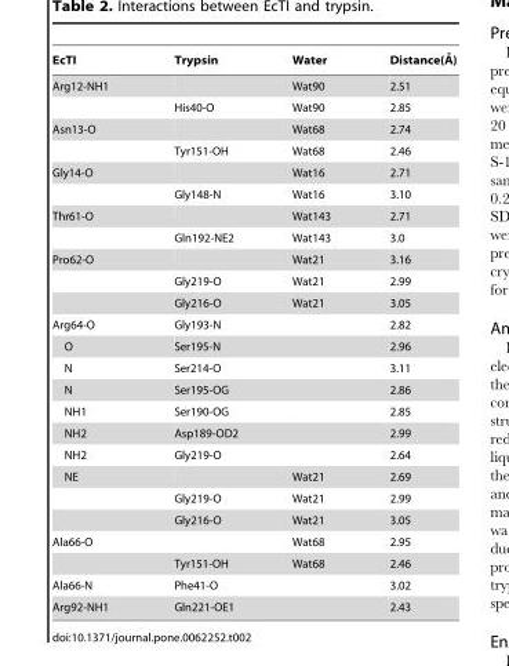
<table><thead><tr><td>EcTI</td><td>Trypsin</td><td>Water</td><td>Distance(A˚ )</td></tr></thead><tbody><tr><td rowspan="2">Arg12-NH1</td><td></td><td>Wat90</td><td>2.51</td></tr><tr><td>His40-O</td><td>Wat90</td><td>2.85</td></tr><tr><td rowspan="2">Asn13-O</td><td></td><td>Wat68</td><td>2.74</td></tr><tr><td>Tyr151-OH</td><td>Wat68</td><td>2.46</td></tr><tr><td rowspan="2">Gly14-O</td><td></td><td>Wat16</td><td>2.71</td></tr><tr><td>Gly148-N</td><td>Wat16</td><td>3.10</td></tr><tr><td rowspan="2">Thr61-O</td><td></td><td>Wat143</td><td>2.71</td></tr><tr><td>Gln192-NE2</td><td>Wat143</td><td>3.0</td></tr><tr><td rowspan="3">Pro62-O</td><td></td><td>Wat21</td><td>3.16</td></tr><tr><td>Gly219-O</td><td>Wat21</td><td>2.99</td></tr><tr><td>Gly216-O</td><td>Wat21</td><td>3.05</td></tr><tr><td>Arg64-O</td><td>Gly193-N</td><td></td><td>2.82</td></tr><tr><td>O</td><td>Ser195-N</td><td></td><td>2.96</td></tr><tr><td>N</td><td>Ser214-O</td><td></td><td>3.11</td></tr><tr><td>N</td><td>Ser195-OG</td><td></td><td>2.86</td></tr><tr><td>NH1</td><td>Ser190-OG</td><td></td><td>2.85</td></tr><tr><td>NH2</td><td>Asp189-OD2</td><td></td><td>2.99</td></tr><tr><td>NH2</td><td>Gly219-O</td><td></td><td>2.64</td></tr><tr><td rowspan="3">NE</td><td></td><td>Wat21</td><td>2.69</td></tr><tr><td>Gly219-O</td><td>Wat21</td><td>2.99</td></tr><tr><td>Gly216-O</td><td>Wat21</td><td>3.05</td></tr><tr><td rowspan="2">Ala66-O</td><td></td><td>Wat68</td><td>2.95</td></tr><tr><td>Tyr151-OH</td><td>Wat68</td><td>2.46</td></tr><tr><td>Ala66-N</td><td>Phe41-O</td><td></td><td>3.02</td></tr><tr><td>Arg92-NH1</td><td>Gln221-OE1</td><td></td><td>2.43</td></tr></tbody></table>